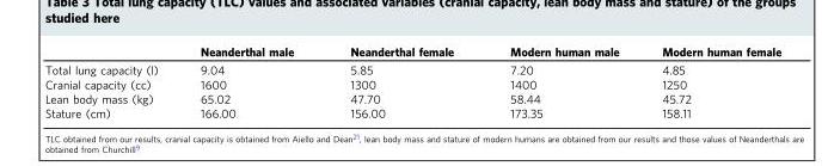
<table><thead><tr><td></td><td>Neanderthal male</td><td>Neanderthal female</td><td>Modern human male</td><td>Modern human female</td></tr></thead><tbody><tr><td>Total lung capacity (l)</td><td>9.04</td><td>5.85</td><td>7.20</td><td>4.85</td></tr><tr><td>Cranial capacity (cc)</td><td>1600</td><td>1300</td><td>1400</td><td>1250</td></tr><tr><td>Lean body mass (kg)</td><td>65.02</td><td>47.70</td><td>58.44</td><td>45.72</td></tr><tr><td>Stature (cm)</td><td>166.00</td><td>156.00</td><td>173.35</td><td>158.11</td></tr></tbody></table>